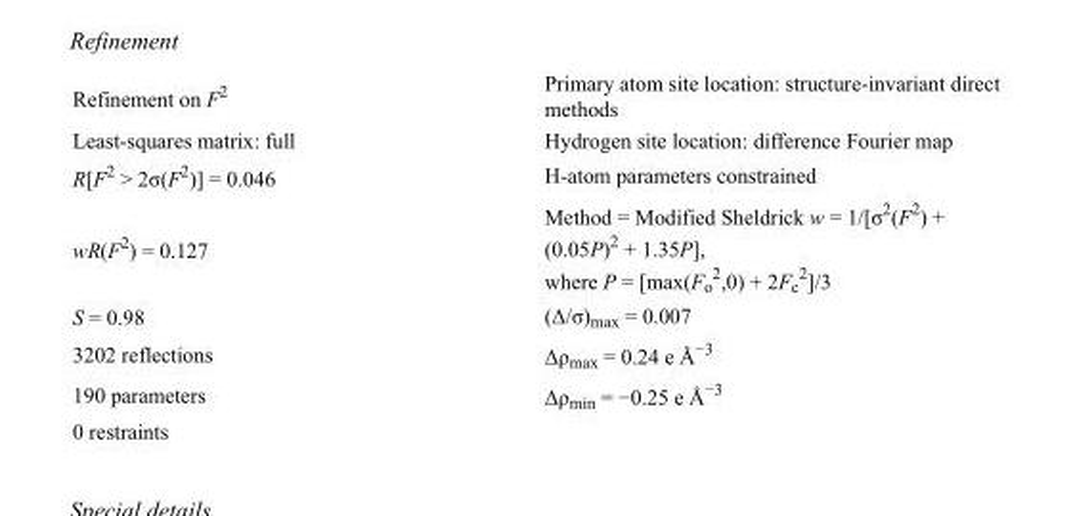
<table><tbody><tr><td>Refinement on F<sup>2</sup></td><td>Primary atom site location: structure-invariant direct methods</td></tr><tr><td>Least-squares matrix: full</td><td>Hydrogen site location: difference Fourier map</td></tr><tr><td>R[F<sup>2</sup> &gt; 2σ(F<sup>2</sup>)] = 0.046</td><td>H-atom parameters constrained</td></tr><tr><td>wR(F<sup>2</sup>) = 0.127</td><td>Method = Modified Sheldrick w = 1/[σ<sup>2</sup>(F<sup>2</sup>) + (0.05P)<sup>2</sup> + 1.35P], where P = [max(F<sub>o</sub> <sup>2</sup>,0) + 2F<sub>c</sub> <sup>2</sup>]/3</td></tr><tr><td>S = 0.98</td><td>(Δ/σ)<sub>max</sub> = 0.007</td></tr><tr><td>3202 reflections</td><td>Δρ<sub>max</sub> = 0.24 e Å<sup>−3</sup></td></tr><tr><td>190 parameters</td><td>Δρ<sub>min</sub> = −0.25 e Å<sup>−3</sup></td></tr><tr><td>0 restraints</td><td></td></tr></tbody></table>